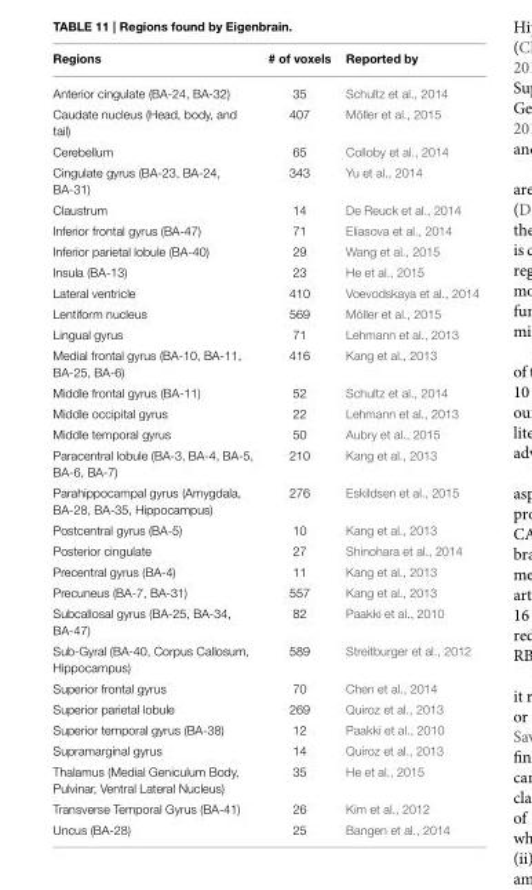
<table><thead><tr><td>Regions</td><td># of voxels</td><td>Reported by</td></tr></thead><tbody><tr><td>Anterior cingulate (BA-24, BA-32)</td><td>35</td><td>Schultz et al., 2014</td></tr><tr><td>Caudate nucleus (Head, body, and tail)</td><td>407</td><td>Möller et al., 2015</td></tr><tr><td>Cerebellum</td><td>65</td><td>Colloby et al., 2014</td></tr><tr><td>Cingulate gyrus (BA-23, BA-24, BA-31)</td><td>343</td><td>Yu et al., 2014</td></tr><tr><td>Claustrum</td><td>14</td><td>De Reuck et al., 2014</td></tr><tr><td>Inferior frontal gyrus (BA-47)</td><td>71</td><td>Eliasova et al., 2014</td></tr><tr><td>Inferior parietal lobule (BA-40)</td><td>29</td><td>Wang et al., 2015</td></tr><tr><td>Insula (BA-13)</td><td>23</td><td>He et al., 2015</td></tr><tr><td>Lateral ventricle</td><td>410</td><td>Voevodskaya et al., 2014</td></tr><tr><td>Lentiform nucleus</td><td>569</td><td>Möller et al., 2015</td></tr><tr><td>Lingual gyrus</td><td>71</td><td>Lehmann et al., 2013</td></tr><tr><td>Medial frontal gyrus (BA-10, BA-11, BA-25, BA-6)</td><td>416</td><td>Kang et al., 2013</td></tr><tr><td>Middle frontal gyrus (BA-11)</td><td>52</td><td>Schultz et al., 2014</td></tr><tr><td>Middle occipital gyrus</td><td>22</td><td>Lehmann et al., 2013</td></tr><tr><td>Middle temporal gyrus</td><td>50</td><td>Aubry et al., 2015</td></tr><tr><td>Paracentral lobule (BA-3, BA-4, BA-5, BA-6, BA-7)</td><td>210</td><td>Kang et al., 2013</td></tr><tr><td>Parahippocampal gyrus (Amygdala, BA-28, BA-35, Hippocampus)</td><td>276</td><td>Eskildsen et al., 2015</td></tr><tr><td>Postcentral gyrus (BA-5)</td><td>10</td><td>Kang et al., 2013</td></tr><tr><td>Posterior cingulate</td><td>27</td><td>Shinohara et al., 2014</td></tr><tr><td>Precentral gyrus (BA-4)</td><td>11</td><td>Kang et al., 2013</td></tr><tr><td>Precuneus (BA-7, BA-31)</td><td>557</td><td>Kang et al., 2013</td></tr><tr><td>Subcallosal gyrus (BA-25, BA-34, BA-47)</td><td>82</td><td>Paakki et al., 2010</td></tr><tr><td>Sub-Gyral (BA-40, Corpus Callosum, Hippocampus)</td><td>589</td><td>Streitburger et al., 2012</td></tr><tr><td>Superior frontal gyrus</td><td>70</td><td>Chen et al., 2014</td></tr><tr><td>Superior parietal lobule</td><td>269</td><td>Quiroz et al., 2013</td></tr><tr><td>Superior temporal gyrus (BA-38)</td><td>12</td><td>Paakki et al., 2010</td></tr><tr><td>Supramarginal gyrus</td><td>14</td><td>Quiroz et al., 2013</td></tr><tr><td>Thalamus (Medial Geniculum Body, Pulvinar, Ventral Lateral Nucleus)</td><td>35</td><td>He et al., 2015</td></tr><tr><td>Transverse Temporal Gyrus (BA-41)</td><td>26</td><td>Kim et al., 2012</td></tr><tr><td>Uncus (BA-28)</td><td>25</td><td>Bangen et al., 2014</td></tr></tbody></table>